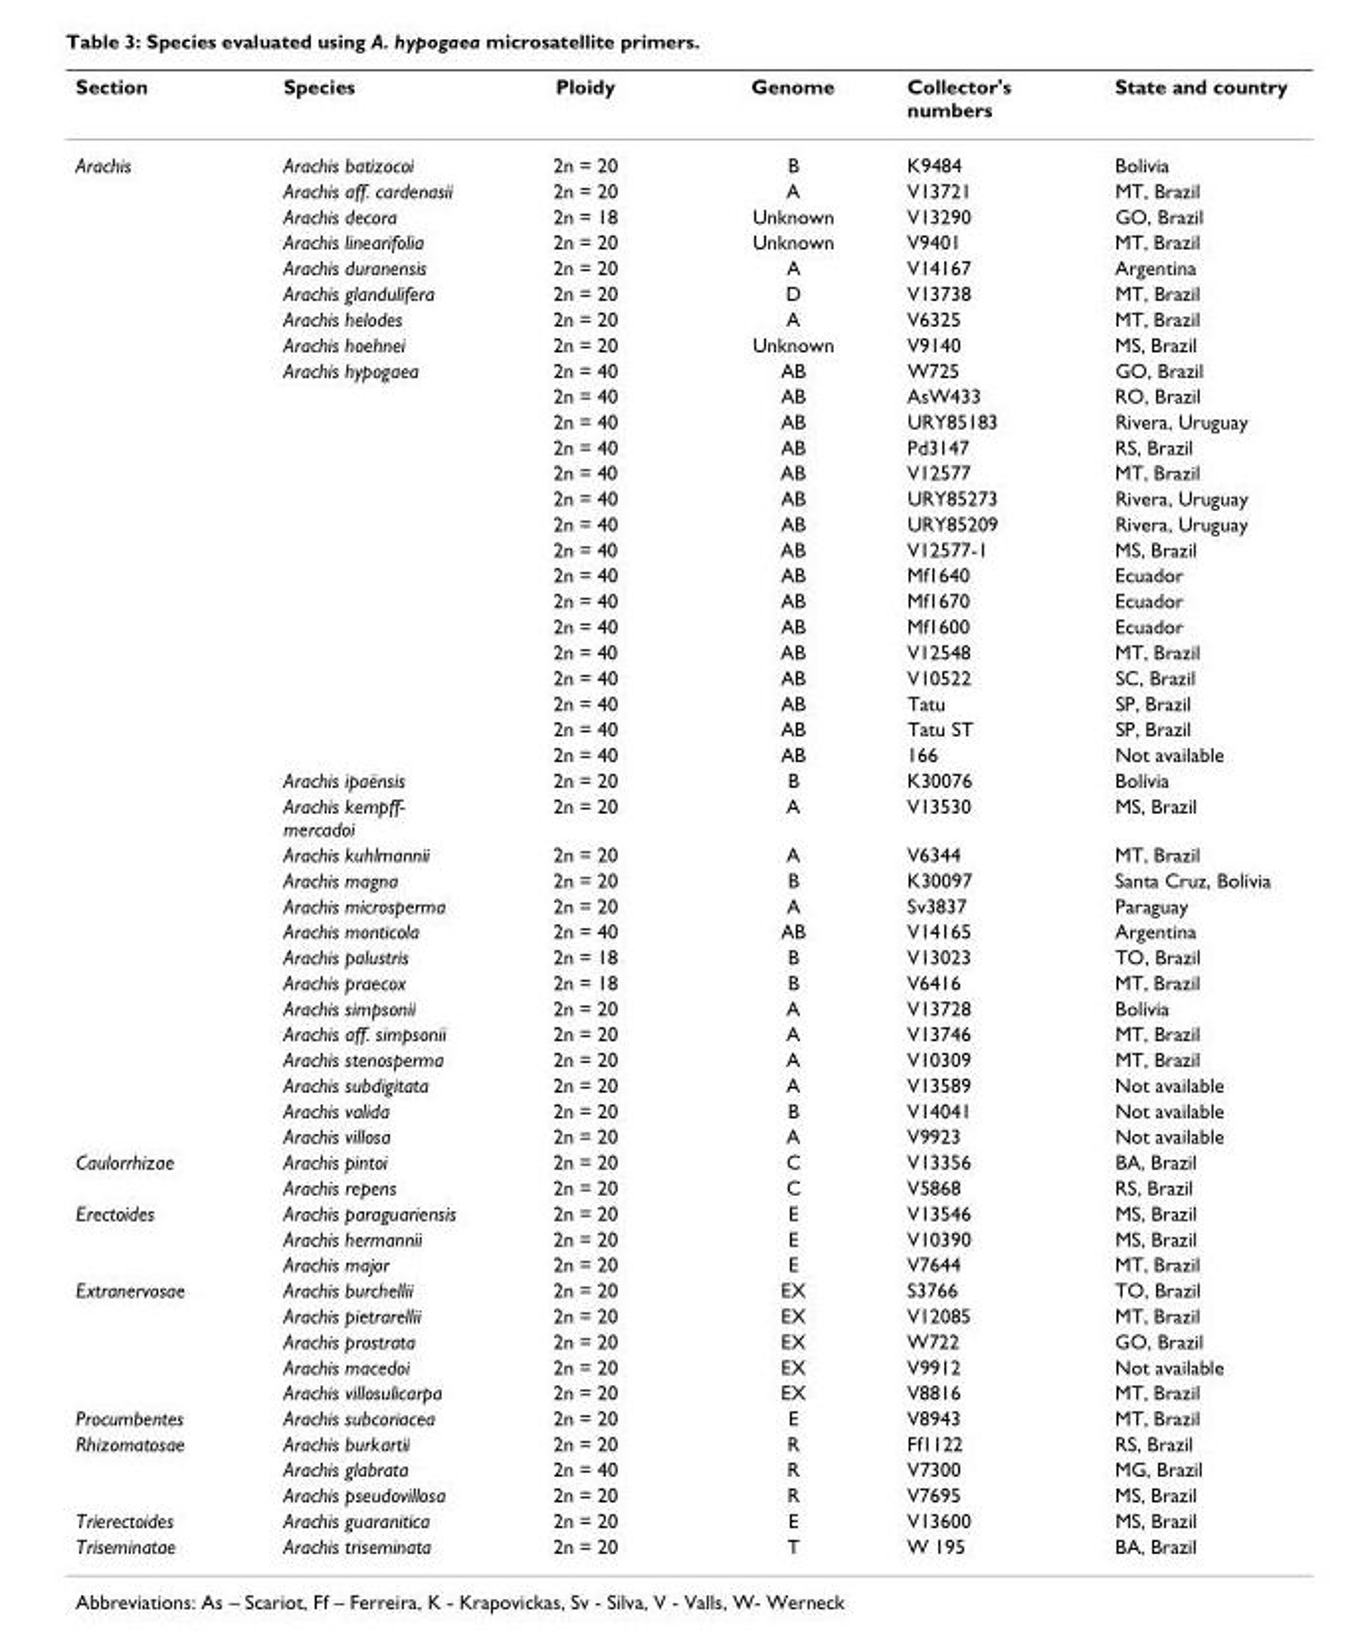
<table><thead><tr><td>Section</td><td>Species</td><td>Ploidy</td><td>Genome</td><td>Collector&#x27;s numbers</td><td>State and country</td></tr></thead><tbody><tr><td rowspan="38">Arachis</td><td>Arachis batizocoi</td><td>2n = 20</td><td>B</td><td>K9484</td><td>Bolivia</td></tr><tr><td>Arachis aff. cardenasii</td><td>2n = 20</td><td>A</td><td>V13721</td><td>MT, Brazil</td></tr><tr><td>Arachis decora</td><td>2n = 18</td><td>Unknown</td><td>V13290</td><td>GO, Brazil</td></tr><tr><td>Arachis linearifolia</td><td>2n = 20</td><td>Unknown</td><td>V9401</td><td>MT, Brazil</td></tr><tr><td>Arachis duranensis</td><td>2n = 20</td><td>A</td><td>V14167</td><td>Argentina</td></tr><tr><td>Arachis glandulifera</td><td>2n = 20</td><td>D</td><td>V13738</td><td>MT, Brazil</td></tr><tr><td>Arachis helodes</td><td>2n = 20</td><td>A</td><td>V6325</td><td>MT, Brazil</td></tr><tr><td>Arachis hoehnei</td><td>2n = 20</td><td>Unknown</td><td>V9140</td><td>MS, Brazil</td></tr><tr><td>Arachis hypogaea</td><td>2n = 40</td><td>AB</td><td>W725</td><td>GO, Brazil</td></tr><tr><td></td><td>2n = 40</td><td>AB</td><td>AsW433</td><td>RO, Brazil</td></tr><tr><td></td><td>2n = 40</td><td>AB</td><td>URY85183</td><td>Rivera, Uruguay</td></tr><tr><td></td><td>2n = 40</td><td>AB</td><td>Pd3147</td><td>RS, Brazil</td></tr><tr><td></td><td>2n = 40</td><td>AB</td><td>V12577</td><td>MT, Brazil</td></tr><tr><td></td><td>2n = 40</td><td>AB</td><td>URY85273</td><td>Rivera, Uruguay</td></tr><tr><td></td><td>2n = 40</td><td>AB</td><td>URY85209</td><td>Rivera, Uruguay</td></tr><tr><td></td><td>2n = 40</td><td>AB</td><td>V12577-1</td><td>MS, Brazil</td></tr><tr><td></td><td>2n = 40</td><td>AB</td><td>Mf1640</td><td>Ecuador</td></tr><tr><td></td><td>2n = 40</td><td>AB</td><td>Mf1670</td><td>Ecuador</td></tr><tr><td></td><td>2n = 40</td><td>AB</td><td>Mf1600</td><td>Ecuador</td></tr><tr><td></td><td>2n = 40</td><td>AB</td><td>V12548</td><td>MT, Brazil</td></tr><tr><td></td><td>2n = 40</td><td>AB</td><td>V10522</td><td>SC, Brazil</td></tr><tr><td></td><td>2n = 40</td><td>AB</td><td>Tatu</td><td>SP, Brazil</td></tr><tr><td></td><td>2n = 40</td><td>AB</td><td>Tatu ST</td><td>SP, Brazil</td></tr><tr><td></td><td>2n = 40</td><td>AB</td><td>166</td><td>Not available</td></tr><tr><td>Arachis ipaënsis</td><td>2n = 20</td><td>B</td><td>K30076</td><td>Bolívia</td></tr><tr><td>Arachis kempff- mercadoi</td><td>2n = 20</td><td>A</td><td>V13530</td><td>MS, Brazil</td></tr><tr><td>Arachis kuhlmannii</td><td>2n = 20</td><td>A</td><td>V6344</td><td>MT, Brazil</td></tr><tr><td>Arachis magna</td><td>2n = 20</td><td>B</td><td>K30097</td><td>Santa Cruz, Bolívia</td></tr><tr><td>Arachis microsperma</td><td>2n = 20</td><td>A</td><td>Sv3837</td><td>Paraguay</td></tr><tr><td>Arachis monticola</td><td>2n = 40</td><td>AB</td><td>V14165</td><td>Argentina</td></tr><tr><td>Arachis palustris</td><td>2n = 18</td><td>B</td><td>V13023</td><td>TO, Brazil</td></tr><tr><td>Arachis praecox</td><td>2n = 18</td><td>B</td><td>V6416</td><td>MT, Brazil</td></tr><tr><td>Arachis simpsonii</td><td>2n = 20</td><td>A</td><td>V13728</td><td>Bolívia</td></tr><tr><td>Arachis aff. simpsonii</td><td>2n = 20</td><td>A</td><td>V13746</td><td>MT, Brazil</td></tr><tr><td>Arachis stenosperma</td><td>2n = 20</td><td>A</td><td>V10309</td><td>MT, Brazil</td></tr><tr><td>Arachis subdigitata</td><td>2n = 20</td><td>A</td><td>V13589</td><td>Not available</td></tr><tr><td>Arachis valida</td><td>2n = 20</td><td>B</td><td>V14041</td><td>Not available</td></tr><tr><td>Arachis villosa</td><td>2n = 20</td><td>A</td><td>V9923</td><td>Not available</td></tr><tr><td rowspan="2">Caulorrhizae</td><td>Arachis pintoi</td><td>2n = 20</td><td>C</td><td>V13356</td><td>BA, Brazil</td></tr><tr><td>Arachis repens</td><td>2n = 20</td><td>C</td><td>V5868</td><td>RS, Brazil</td></tr><tr><td rowspan="3">Erectoides</td><td>Arachis paraguariensis</td><td>2n = 20</td><td>E</td><td>V13546</td><td>MS, Brazil</td></tr><tr><td>Arachis hermannii</td><td>2n = 20</td><td>E</td><td>V10390</td><td>MS, Brazil</td></tr><tr><td>Arachis major</td><td>2n = 20</td><td>E</td><td>V7644</td><td>MT, Brazil</td></tr><tr><td rowspan="5">Extranervosae</td><td>Arachis burchellii</td><td>2n = 20</td><td>EX</td><td>S3766</td><td>TO, Brazil</td></tr><tr><td>Arachis pietrarellii</td><td>2n = 20</td><td>EX</td><td>V12085</td><td>MT, Brazil</td></tr><tr><td>Arachis prostrata</td><td>2n = 20</td><td>EX</td><td>W722</td><td>GO, Brazil</td></tr><tr><td>Arachis macedoi</td><td>2n = 20</td><td>EX</td><td>V9912</td><td>Not available</td></tr><tr><td>Arachis villosulicarpa</td><td>2n = 20</td><td>EX</td><td>V8816</td><td>MT, Brazil</td></tr><tr><td>Procumbentes</td><td>Arachis subcoriacea</td><td>2n = 20</td><td>E</td><td>V8943</td><td>MT, Brazil</td></tr><tr><td rowspan="3">Rhizomatosae</td><td>Arachis burkartii</td><td>2n = 20</td><td>R</td><td>Ff1122</td><td>RS, Brazil</td></tr><tr><td>Arachis glabrata</td><td>2n = 40</td><td>R</td><td>V7300</td><td>MG, Brazil</td></tr><tr><td>Arachis pseudovillosa</td><td>2n = 20</td><td>R</td><td>V7695</td><td>MS, Brazil</td></tr><tr><td>Trierectoides</td><td>Arachis guaranitica</td><td>2n = 20</td><td>E</td><td>V13600</td><td>MS, Brazil</td></tr><tr><td>Triseminatae</td><td>Arachis triseminata</td><td>2n = 20</td><td>T</td><td>W 195</td><td>BA, Brazil</td></tr></tbody></table>